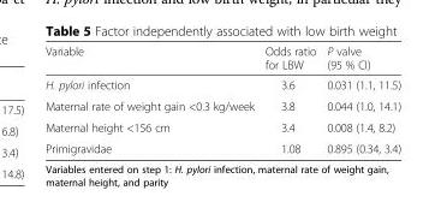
<table><thead><tr><td>Variable</td><td>Odds ratio for LBW</td><td>P valve (95 % CI)</td></tr></thead><tbody><tr><td>H. pylori infection</td><td>3.6</td><td>0.031 (1.1, 11.5)</td></tr><tr><td>Maternal rate of weight gain &lt;0.3 kg/week</td><td>3.8</td><td>0.044 (1.0, 14.1)</td></tr><tr><td>Maternal height &lt;156 cm</td><td>3.4</td><td>0.008 (1.4, 8.2)</td></tr><tr><td>Primigravidae</td><td>1.08</td><td>0.895 (0.34, 3.4)</td></tr></tbody></table>